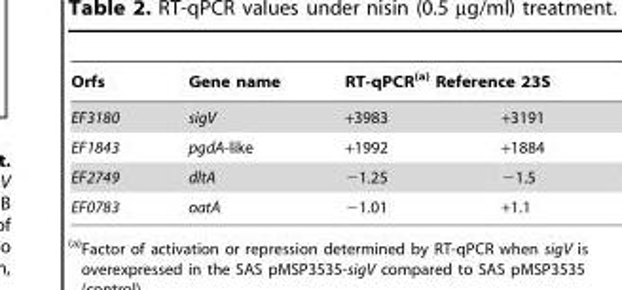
<table><thead><tr><td rowspan="2">Orfs EF3180</td><td rowspan="2">Gene name sigV</td><td colspan="2">RT-qPCR(a) Reference 23S</td></tr><tr><td>+3983</td><td>+3191</td></tr></thead><tbody><tr><td>EF1843</td><td>pgdA-like</td><td>+1992</td><td>+1884</td></tr><tr><td>EF2749</td><td>dltA</td><td>−1.25</td><td>−1.5</td></tr><tr><td>EF0783</td><td>oatA</td><td>−1.01</td><td>+1.1</td></tr></tbody></table>